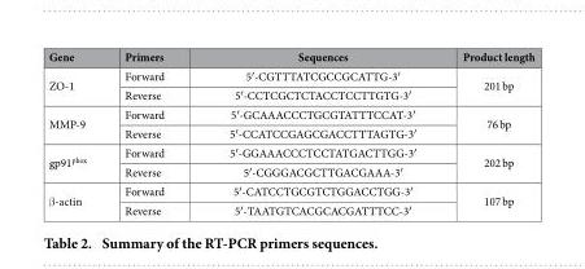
<table><thead><tr><td>Gene</td><td>Primers</td><td>Sequences</td><td>Product length</td></tr></thead><tbody><tr><td rowspan="2">ZO-1</td><td>Forward</td><td>5′ -CGTTTATCGCCGCATTG-3′</td><td rowspan="2">201 bp</td></tr><tr><td>Reverse</td><td>5′ -CCTCGCTCTACCTCCTTGTG-3′</td></tr><tr><td rowspan="2">MMP-9</td><td>Forward</td><td>5′ -GCAAACCCTGCGTATTTCCAT-3′</td><td rowspan="2">76 bp</td></tr><tr><td>Reverse</td><td>5′ -CCATCCGAGCGACCTTTAGTG-3′</td></tr><tr><td rowspan="2">gp91<sup>phox</sup></td><td>Forward</td><td>5′ -GGAAACCCTCCTATGACTTGG-3′</td><td rowspan="2">202 bp</td></tr><tr><td>Reverse</td><td>5′ -CGGGACGCTTGACGAAA-3′</td></tr><tr><td rowspan="2">β -actin</td><td>Forward</td><td>5′ -CATCCTGCGTCTGGACCTGG-3′</td><td rowspan="2">107 bp</td></tr><tr><td>Reverse</td><td>5′ -TAATGTCACGCACGATTTCC-3′</td></tr></tbody></table>